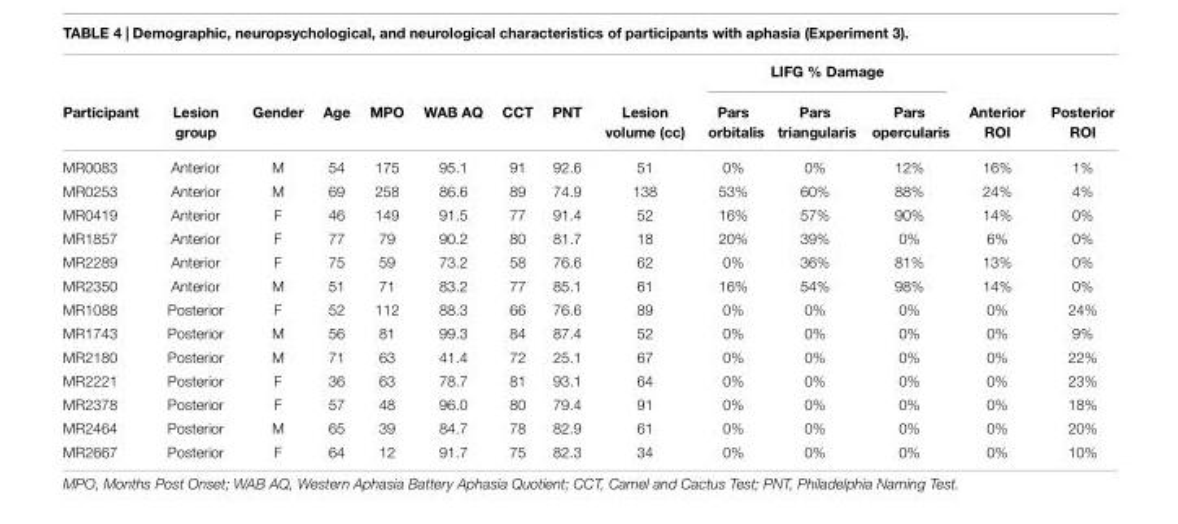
<table><thead><tr><td rowspan="2">Participant</td><td rowspan="2">Lesion group</td><td rowspan="2">Gender</td><td rowspan="2">Age</td><td rowspan="2">MPO</td><td rowspan="2">WAB AQ</td><td rowspan="2">CCT</td><td rowspan="2">PNT</td><td rowspan="2">Lesion volume (cc)</td><td colspan="3">LIFG % Damage</td><td rowspan="2">Anterior ROI</td><td rowspan="2">Posterior ROI</td></tr><tr><td>Pars orbitalis</td><td>Pars triangularis</td><td>Pars opercularis</td></tr></thead><tbody><tr><td>MR0083</td><td>Anterior</td><td>M</td><td>54</td><td>175</td><td>95.1</td><td>91</td><td>92.6</td><td>51</td><td>0%</td><td>0%</td><td>12%</td><td>16%</td><td>1%</td></tr><tr><td>MR0253</td><td>Anterior</td><td>M</td><td>69</td><td>258</td><td>86.6</td><td>89</td><td>74.9</td><td>138</td><td>53%</td><td>60%</td><td>88%</td><td>24%</td><td>4%</td></tr><tr><td>MR0419</td><td>Anterior</td><td>F</td><td>46</td><td>149</td><td>91.5</td><td>77</td><td>91.4</td><td>52</td><td>16%</td><td>57%</td><td>90%</td><td>14%</td><td>0%</td></tr><tr><td>MR1857</td><td>Anterior</td><td>F</td><td>77</td><td>79</td><td>90.2</td><td>80</td><td>81.7</td><td>18</td><td>20%</td><td>39%</td><td>0%</td><td>6%</td><td>0%</td></tr><tr><td>MR2289</td><td>Anterior</td><td>F</td><td>75</td><td>59</td><td>73.2</td><td>58</td><td>76.6</td><td>62</td><td>0%</td><td>36%</td><td>81%</td><td>13%</td><td>0%</td></tr><tr><td>MR2350</td><td>Anterior</td><td>M</td><td>51</td><td>71</td><td>83.2</td><td>77</td><td>85.1</td><td>61</td><td>16%</td><td>54%</td><td>98%</td><td>14%</td><td>0%</td></tr><tr><td>MR1088</td><td>Posterior</td><td>F</td><td>52</td><td>112</td><td>88.3</td><td>66</td><td>76.6</td><td>89</td><td>0%</td><td>0%</td><td>0%</td><td>0%</td><td>24%</td></tr><tr><td>MR1743</td><td>Posterior</td><td>M</td><td>56</td><td>81</td><td>99.3</td><td>84</td><td>87.4</td><td>52</td><td>0%</td><td>0%</td><td>0%</td><td>0%</td><td>9%</td></tr><tr><td>MR2180</td><td>Posterior</td><td>M</td><td>71</td><td>63</td><td>41.4</td><td>72</td><td>25.1</td><td>67</td><td>0%</td><td>0%</td><td>0%</td><td>0%</td><td>22%</td></tr><tr><td>MR2221</td><td>Posterior</td><td>F</td><td>36</td><td>63</td><td>78.7</td><td>81</td><td>93.1</td><td>64</td><td>0%</td><td>0%</td><td>0%</td><td>0%</td><td>23%</td></tr><tr><td>MR2378</td><td>Posterior</td><td>F</td><td>57</td><td>48</td><td>96.0</td><td>80</td><td>79.4</td><td>91</td><td>0%</td><td>0%</td><td>0%</td><td>0%</td><td>18%</td></tr><tr><td>MR2464</td><td>Posterior</td><td>M</td><td>65</td><td>39</td><td>84.7</td><td>78</td><td>82.9</td><td>61</td><td>0%</td><td>0%</td><td>0%</td><td>0%</td><td>20%</td></tr><tr><td>MR2667</td><td>Posterior</td><td>F</td><td>64</td><td>12</td><td>91.7</td><td>75</td><td>82.3</td><td>34</td><td>0%</td><td>0%</td><td>0%</td><td>0%</td><td>10%</td></tr></tbody></table>